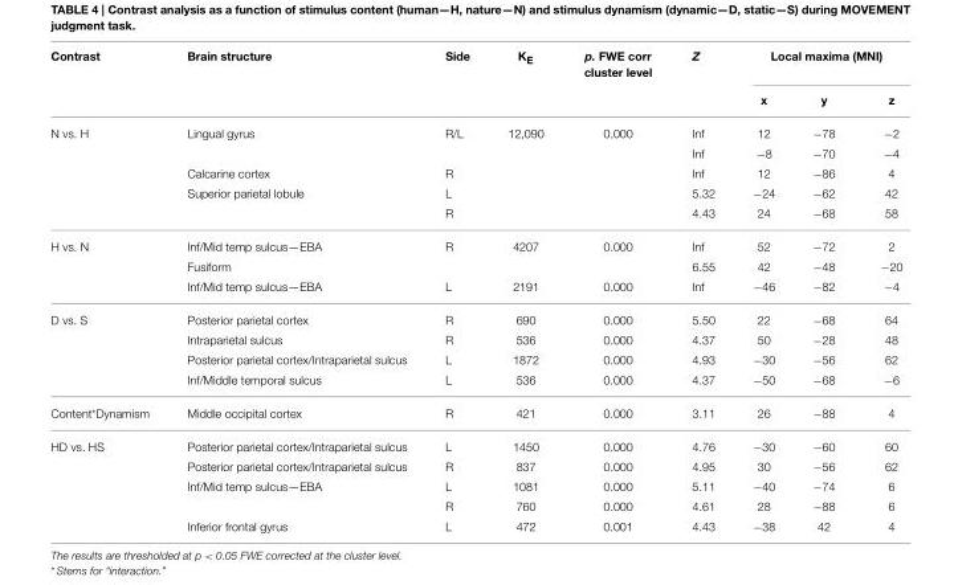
<table><thead><tr><td rowspan="2">Contrast</td><td rowspan="2">Brain structure</td><td rowspan="2">Side</td><td rowspan="2">K<sub>E</sub></td><td rowspan="2">p. FWE corr cluster level</td><td rowspan="2">Z</td><td colspan="3">Local maxima (MNI)</td></tr><tr><td>x</td><td>y</td><td>z</td></tr></thead><tbody><tr><td rowspan="5">N vs. H</td><td>Lingual gyrus</td><td>R/L</td><td>12,090</td><td>0.000</td><td>Inf</td><td>12</td><td>−78</td><td>−2</td></tr><tr><td></td><td></td><td></td><td></td><td>Inf</td><td>−8</td><td>−70</td><td>−4</td></tr><tr><td>Calcarine cortex</td><td>R</td><td></td><td></td><td>Inf</td><td>12</td><td>−86</td><td>4</td></tr><tr><td>Superior parietal lobule</td><td>L</td><td></td><td></td><td>5.32</td><td>−24</td><td>−62</td><td>42</td></tr><tr><td></td><td>R</td><td></td><td></td><td>4.43</td><td>24</td><td>−68</td><td>58</td></tr><tr><td rowspan="3">H vs. N</td><td>Inf/Mid temp sulcus—EBA</td><td>R</td><td>4207</td><td>0.000</td><td>Inf</td><td>52</td><td>−72</td><td>2</td></tr><tr><td>Fusiform</td><td></td><td></td><td></td><td>6.55</td><td>42</td><td>−48</td><td>−20</td></tr><tr><td>Inf/Mid temp sulcus—EBA</td><td>L</td><td>2191</td><td>0.000</td><td>Inf</td><td>−46</td><td>−82</td><td>−4</td></tr><tr><td rowspan="4">D vs. S</td><td>Posterior parietal cortex</td><td>R</td><td>690</td><td>0.000</td><td>5.50</td><td>22</td><td>−68</td><td>64</td></tr><tr><td>Intraparietal sulcus</td><td>R</td><td>536</td><td>0.000</td><td>4.37</td><td>50</td><td>−28</td><td>48</td></tr><tr><td>Posterior parietal cortex/Intraparietal sulcus</td><td>L</td><td>1872</td><td>0.000</td><td>4.93</td><td>−30</td><td>−56</td><td>62</td></tr><tr><td>Inf/Middle temporal sulcus</td><td>L</td><td>536</td><td>0.000</td><td>4.37</td><td>−50</td><td>−68</td><td>−6</td></tr><tr><td>Content*Dynamism</td><td>Middle occipital cortex</td><td>R</td><td>421</td><td>0.000</td><td>3.11</td><td>26</td><td>−88</td><td>4</td></tr><tr><td rowspan="5">HD vs. HS</td><td>Posterior parietal cortex/Intraparietal sulcus</td><td>L</td><td>1450</td><td>0.000</td><td>4.76</td><td>−30</td><td>−60</td><td>60</td></tr><tr><td>Posterior parietal cortex/Intraparietal sulcus</td><td>R</td><td>837</td><td>0.000</td><td>4.95</td><td>30</td><td>−56</td><td>62</td></tr><tr><td>Inf/Mid temp sulcus—EBA</td><td>L</td><td>1081</td><td>0.000</td><td>5.11</td><td>−40</td><td>−74</td><td>6</td></tr><tr><td></td><td>R</td><td>760</td><td>0.000</td><td>4.61</td><td>28</td><td>−88</td><td>6</td></tr><tr><td>Inferior frontal gyrus</td><td>L</td><td>472</td><td>0.001</td><td>4.43</td><td>−38</td><td>42</td><td>4</td></tr></tbody></table>